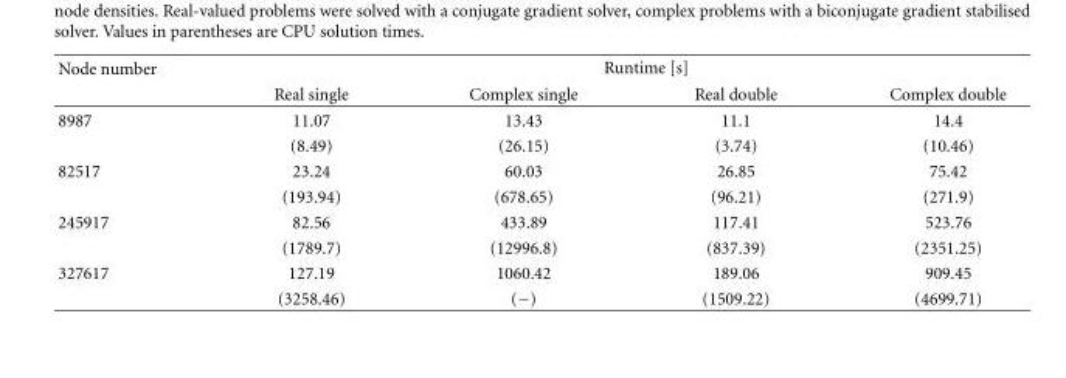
<table><thead><tr><td rowspan="2">Node number</td><td colspan="4">Runtime [s]</td></tr><tr><td>Real single</td><td>Complex single</td><td>Real double</td><td>Complex double</td></tr></thead><tbody><tr><td rowspan="2">8987</td><td>11.07</td><td>13.43</td><td>11.1</td><td>14.4</td></tr><tr><td>(8.49)</td><td>(26.15)</td><td>(3.74)</td><td>(10.46)</td></tr><tr><td rowspan="2">82517</td><td>23.24</td><td>60.03</td><td>26.85</td><td>75.42</td></tr><tr><td>(193.94)</td><td>(678.65)</td><td>(96.21)</td><td>(271.9)</td></tr><tr><td rowspan="2">245917</td><td>82.56</td><td>433.89</td><td>117.41</td><td>523.76</td></tr><tr><td>(1789.7)</td><td>(12996.8)</td><td>(837.39)</td><td>(2351.25)</td></tr><tr><td rowspan="2">327617</td><td>127.19</td><td>1060.42</td><td>189.06</td><td>909.45</td></tr><tr><td>(3258.46)</td><td>(−)</td><td>(1509.22)</td><td>(4699.71)</td></tr></tbody></table>